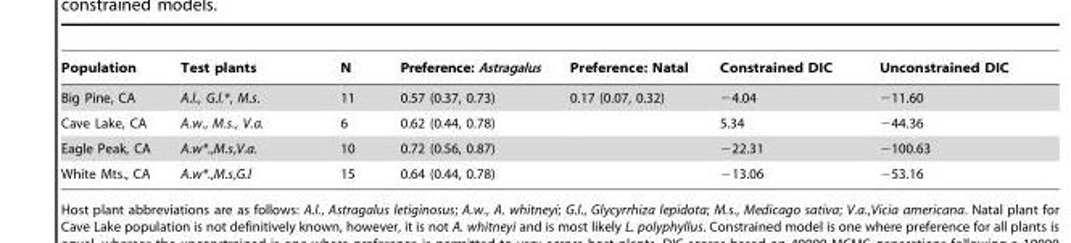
<table><thead><tr><td>Population</td><td>Test plants</td><td>N</td><td>Preference: Astragalus</td><td>Preference: Natal</td><td>Constrained DIC</td><td>Unconstrained DIC</td></tr></thead><tbody><tr><td>Big Pine, CA</td><td>A.l., G.l.*, M.s.</td><td>11</td><td>0.57 (0.37, 0.73)</td><td>0.17 (0.07, 0.32)</td><td>−4.04</td><td>−11.60</td></tr><tr><td>Cave Lake, CA</td><td>A.w., M.s., V.a.</td><td>6</td><td>0.62 (0.44, 0.78)</td><td></td><td>5.34</td><td>−44.36</td></tr><tr><td>Eagle Peak, CA</td><td>A.w*.,M.s,V.a.</td><td>10</td><td>0.72 (0.56, 0.87)</td><td></td><td>−22.31</td><td>−100.63</td></tr><tr><td>White Mts., CA</td><td>A.w*.,M.s,G.l</td><td>15</td><td>0.64 (0.44, 0.78)</td><td></td><td>−13.06</td><td>−53.16</td></tr></tbody></table>